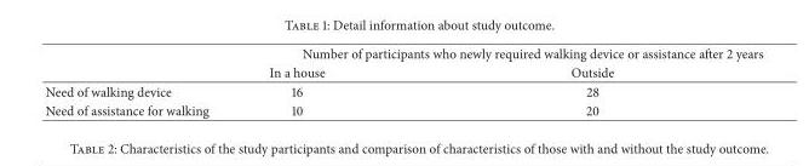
<table><thead><tr><td rowspan="2"></td><td colspan="2">Number of participants who newly required walking device or assistance after 2 years</td></tr><tr><td>In a house</td><td>Outside</td></tr></thead><tbody><tr><td>Need of walking device</td><td>16</td><td>28</td></tr><tr><td>Need of assistance for walking</td><td>10</td><td>20</td></tr></tbody></table>